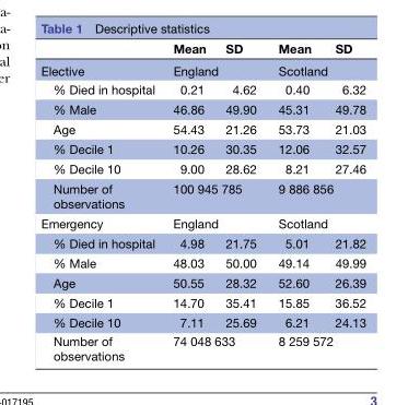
<table><thead><tr><td></td><td>Mean</td><td>SD</td><td>Mean</td><td>SD</td></tr></thead><tbody><tr><td>Elective</td><td colspan="2">England</td><td colspan="2">Scotland</td></tr><tr><td>% Died in hospital</td><td>0.21</td><td>4.62</td><td>0.40</td><td>6.32</td></tr><tr><td>% Male</td><td>46.86</td><td>49.90</td><td>45.31</td><td>49.78</td></tr><tr><td>Age</td><td>54.43</td><td>21.26</td><td>53.73</td><td>21.03</td></tr><tr><td>% Decile 1</td><td>10.26</td><td>30.35</td><td>12.06</td><td>32.57</td></tr><tr><td>% Decile 10</td><td>9.00</td><td>28.62</td><td>8.21</td><td>27.46</td></tr><tr><td>Number of observations</td><td colspan="2">100 945 785</td><td colspan="2">9 886 856</td></tr><tr><td>Emergency</td><td colspan="2">England</td><td colspan="2">Scotland</td></tr><tr><td>% Died in hospital</td><td>4.98</td><td>21.75</td><td>5.01</td><td>21.82</td></tr><tr><td>% Male</td><td>48.03</td><td>50.00</td><td>49.14</td><td>49.99</td></tr><tr><td>Age</td><td>50.55</td><td>28.32</td><td>52.60</td><td>26.39</td></tr><tr><td>% Decile 1</td><td>14.70</td><td>35.41</td><td>15.85</td><td>36.52</td></tr><tr><td>% Decile 10</td><td>7.11</td><td>25.69</td><td>6.21</td><td>24.13</td></tr><tr><td>Number of observations</td><td colspan="2">74 048 633</td><td colspan="2">8 259 572</td></tr></tbody></table>